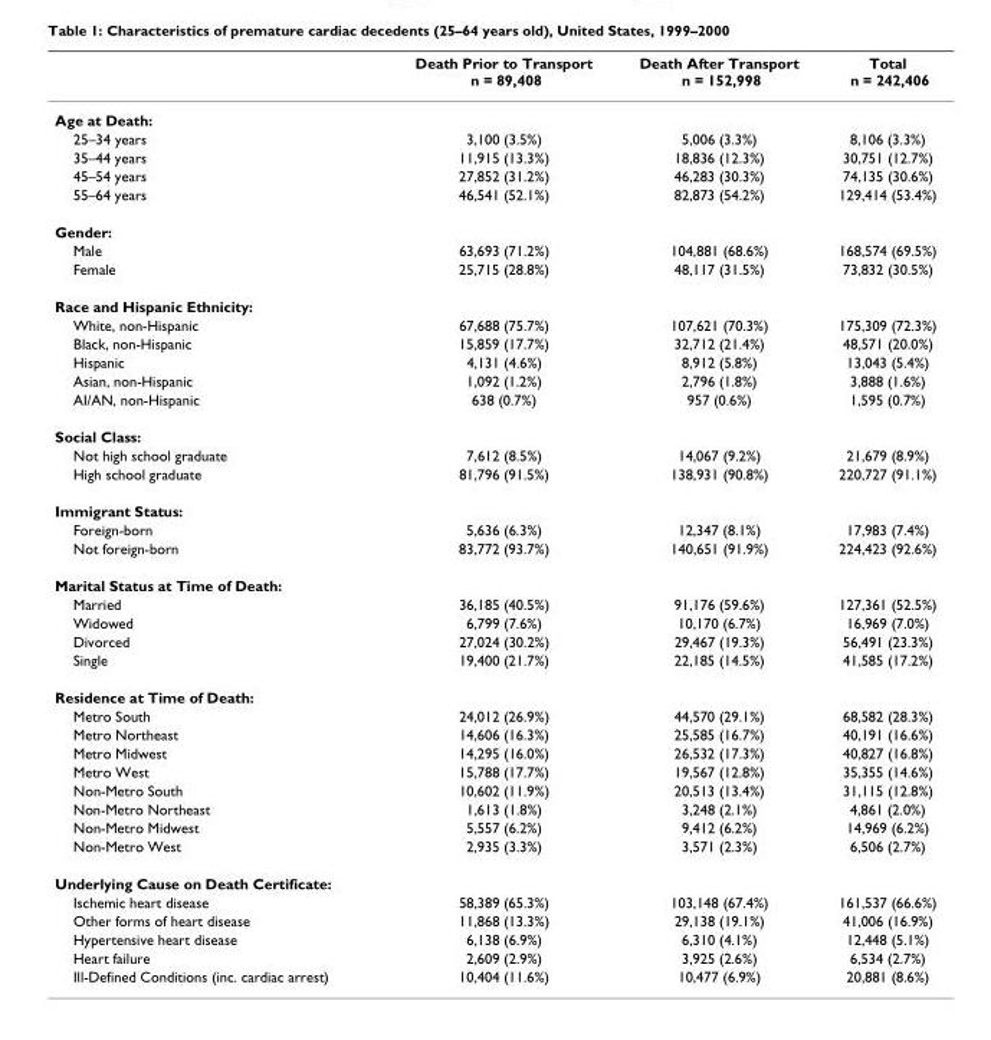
<table><thead><tr><td></td><td>Death Prior to Transport n = 89,408</td><td>Death After Transport n = 152,998</td><td>Total n = 242,406</td></tr></thead><tbody><tr><td colspan="4">Age at Death:</td></tr><tr><td>25–34 years</td><td>3,100 (3.5%)</td><td>5,006 (3.3%)</td><td>8,106 (3.3%)</td></tr><tr><td>35–44 years</td><td>11,915 (13.3%)</td><td>18,836 (12.3%)</td><td>30,751 (12.7%)</td></tr><tr><td>45–54 years</td><td>27,852 (31.2%)</td><td>46,283 (30.3%)</td><td>74,135 (30.6%)</td></tr><tr><td>55–64 years</td><td>46,541 (52.1%)</td><td>82,873 (54.2%)</td><td>129,414 (53.4%)</td></tr><tr><td colspan="4">Gender:</td></tr><tr><td>Male</td><td>63,693 (71.2%)</td><td>104,881 (68.6%)</td><td>168,574 (69.5%)</td></tr><tr><td>Female</td><td>25,715 (28.8%)</td><td>48,117 (31.5%)</td><td>73,832 (30.5%)</td></tr><tr><td colspan="4">Race and Hispanic Ethnicity:</td></tr><tr><td>White, non-Hispanic</td><td>67,688 (75.7%)</td><td>107,621 (70.3%)</td><td>175,309 (72.3%)</td></tr><tr><td>Black, non-Hispanic</td><td>15,859 (17.7%)</td><td>32,712 (21.4%)</td><td>48,571 (20.0%)</td></tr><tr><td>Hispanic</td><td>4,131 (4.6%)</td><td>8,912 (5.8%)</td><td>13,043 (5.4%)</td></tr><tr><td>Asian, non-Hispanic</td><td>1,092 (1.2%)</td><td>2,796 (1.8%)</td><td>3,888 (1.6%)</td></tr><tr><td>AI/AN, non-Hispanic</td><td>638 (0.7%)</td><td>957 (0.6%)</td><td>1,595 (0.7%)</td></tr><tr><td colspan="4">Social Class:</td></tr><tr><td>Not high school graduate</td><td>7,612 (8.5%)</td><td>14,067 (9.2%)</td><td>21,679 (8.9%)</td></tr><tr><td>High school graduate</td><td>81,796 (91.5%)</td><td>138,931 (90.8%)</td><td>220,727 (91.1%)</td></tr><tr><td colspan="4">Immigrant Status:</td></tr><tr><td>Foreign-born</td><td>5,636 (6.3%)</td><td>12,347 (8.1%)</td><td>17,983 (7.4%)</td></tr><tr><td>Not foreign-born</td><td>83,772 (93.7%)</td><td>140,651 (91.9%)</td><td>224,423 (92.6%)</td></tr><tr><td colspan="4">Marital Status at Time of Death:</td></tr><tr><td>Married</td><td>36,185 (40.5%)</td><td>91,176 (59.6%)</td><td>127,361 (52.5%)</td></tr><tr><td>Widowed</td><td>6,799 (7.6%)</td><td>10,170 (6.7%)</td><td>16,969 (7.0%)</td></tr><tr><td>Divorced</td><td>27,024 (30.2%)</td><td>29,467 (19.3%)</td><td>56,491 (23.3%)</td></tr><tr><td>Single</td><td>19,400 (21.7%)</td><td>22,185 (14.5%)</td><td>41,585 (17.2%)</td></tr><tr><td colspan="4">Residence at Time of Death:</td></tr><tr><td>Metro South</td><td>24,012 (26.9%)</td><td>44,570 (29.1%)</td><td>68,582 (28.3%)</td></tr><tr><td>Metro Northeast</td><td>14,606 (16.3%)</td><td>25,585 (16.7%)</td><td>40,191 (16.6%)</td></tr><tr><td>Metro Midwest</td><td>14,295 (16.0%)</td><td>26,532 (17.3%)</td><td>40,827 (16.8%)</td></tr><tr><td>Metro West</td><td>15,788 (17.7%)</td><td>19,567 (12.8%)</td><td>35,355 (14.6%)</td></tr><tr><td>Non-Metro South</td><td>10,602 (11.9%)</td><td>20,513 (13.4%)</td><td>31,115 (12.8%)</td></tr><tr><td>Non-Metro Northeast</td><td>1,613 (1.8%)</td><td>3,248 (2.1%)</td><td>4,861 (2.0%)</td></tr><tr><td>Non-Metro Midwest</td><td>5,557 (6.2%)</td><td>9,412 (6.2%)</td><td>14,969 (6.2%)</td></tr><tr><td>Non-Metro West</td><td>2,935 (3.3%)</td><td>3,571 (2.3%)</td><td>6,506 (2.7%)</td></tr><tr><td colspan="4">Underlying Cause on Death Certificate:</td></tr><tr><td>Ischemic heart disease</td><td>58,389 (65.3%)</td><td>103,148 (67.4%)</td><td>161,537 (66.6%)</td></tr><tr><td>Other forms of heart disease</td><td>11,868 (13.3%)</td><td>29,138 (19.1%)</td><td>41,006 (16.9%)</td></tr><tr><td>Hypertensive heart disease</td><td>6,138 (6.9%)</td><td>6,310 (4.1%)</td><td>12,448 (5.1%)</td></tr><tr><td>Heart failure</td><td>2,609 (2.9%)</td><td>3,925 (2.6%)</td><td>6,534 (2.7%)</td></tr><tr><td>Ill-Defined Conditions (inc. cardiac arrest)</td><td>10,404 (11.6%)</td><td>10,477 (6.9%)</td><td>20,881 (8.6%)</td></tr></tbody></table>